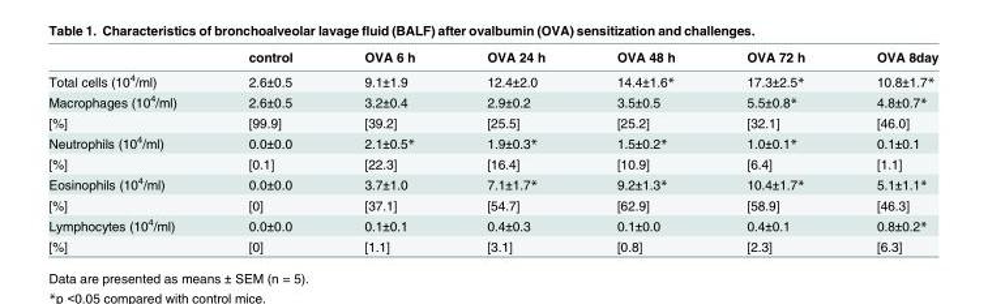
<table><thead><tr><td></td><td>control</td><td>OVA 6 h</td><td>OVA 24 h</td><td>OVA 48 h</td><td>OVA 72 h</td><td>OVA 8day</td></tr></thead><tbody><tr><td>Total cells (10<sup>4</sup>/ml)</td><td>2.6±0.5</td><td>9.1±1.9</td><td>12.4±2.0</td><td>14.4±1.6*</td><td>17.3±2.5*</td><td>10.8±1.7*</td></tr><tr><td>Macrophages (10<sup>4</sup>/ml)</td><td>2.6±0.5</td><td>3.2±0.4</td><td>2.9±0.2</td><td>3.5±0.5</td><td>5.5±0.8*</td><td>4.8±0.7*</td></tr><tr><td>[%]</td><td>[99.9]</td><td>[39.2]</td><td>[25.5]</td><td>[25.2]</td><td>[32.1]</td><td>[46.0]</td></tr><tr><td>Neutrophils (10<sup>4</sup>/ml)</td><td>0.0±0.0</td><td>2.1±0.5*</td><td>1.9±0.3*</td><td>1.5±0.2*</td><td>1.0±0.1*</td><td>0.1±0.1</td></tr><tr><td>[%]</td><td>[0.1]</td><td>[22.3]</td><td>[16.4]</td><td>[10.9]</td><td>[6.4]</td><td>[1.1]</td></tr><tr><td>Eosinophils (10<sup>4</sup>/ml)</td><td>0.0±0.0</td><td>3.7±1.0</td><td>7.1±1.7*</td><td>9.2±1.3*</td><td>10.4±1.7*</td><td>5.1±1.1*</td></tr><tr><td>[%]</td><td>[0]</td><td>[37.1]</td><td>[54.7]</td><td>[62.9]</td><td>[58.9]</td><td>[46.3]</td></tr><tr><td>Lymphocytes (10<sup>4</sup>/ml)</td><td>0.0±0.0</td><td>0.1±0.1</td><td>0.4±0.3</td><td>0.1±0.0</td><td>0.4±0.1</td><td>0.8±0.2*</td></tr><tr><td>[%]</td><td>[0]</td><td>[1.1]</td><td>[3.1]</td><td>[0.8]</td><td>[2.3]</td><td>[6.3]</td></tr></tbody></table>